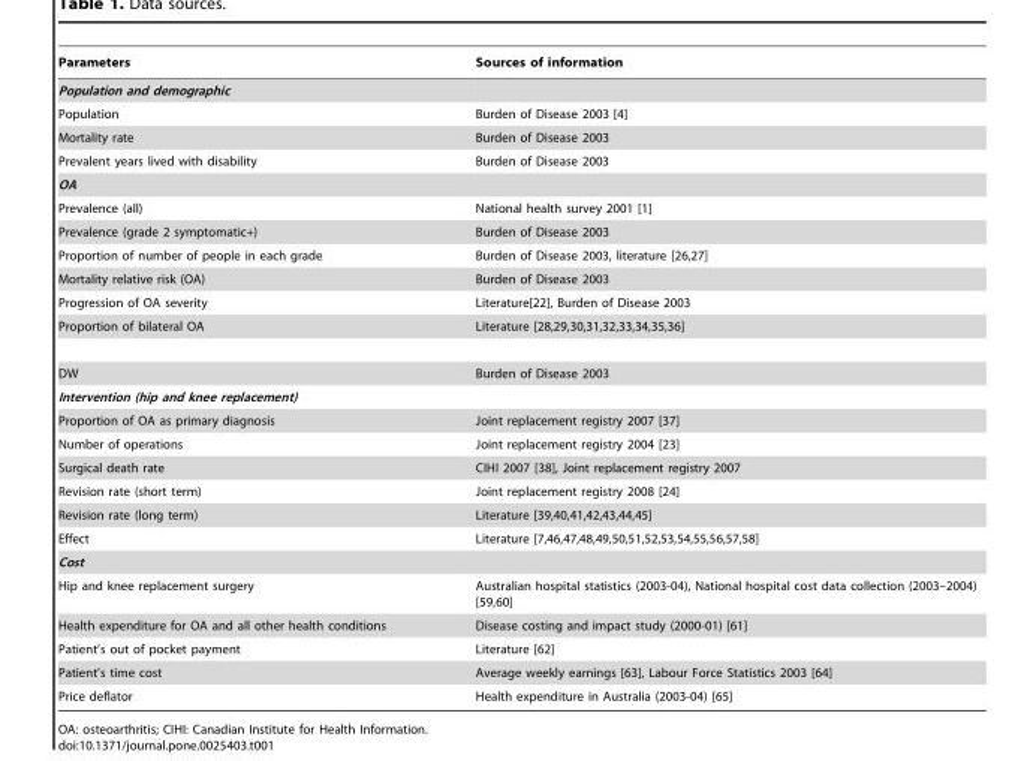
<table><thead><tr><td>Parameters</td><td>Sources of information</td></tr></thead><tbody><tr><td colspan="2">Population and demographic</td></tr><tr><td>Population</td><td>Burden of Disease 2003 [4]</td></tr><tr><td>Mortality rate</td><td>Burden of Disease 2003</td></tr><tr><td>Prevalent years lived with disability</td><td>Burden of Disease 2003</td></tr><tr><td colspan="2">OA</td></tr><tr><td>Prevalence (all)</td><td>National health survey 2001 [1]</td></tr><tr><td>Prevalence (grade 2 symptomatic+)</td><td>Burden of Disease 2003</td></tr><tr><td>Proportion of number of people in each grade</td><td>Burden of Disease 2003, literature [26,27]</td></tr><tr><td>Mortality relative risk (OA)</td><td>Burden of Disease 2003</td></tr><tr><td>Progression of OA severity</td><td>Literature[22], Burden of Disease 2003</td></tr><tr><td>Proportion of bilateral OA</td><td>Literature [28,29,30,31,32,33,34,35,36]</td></tr><tr><td>DW</td><td>Burden of Disease 2003</td></tr><tr><td colspan="2">Intervention (hip and knee replacement)</td></tr><tr><td>Proportion of OA as primary diagnosis</td><td>Joint replacement registry 2007 [37]</td></tr><tr><td>Number of operations</td><td>Joint replacement registry 2004 [23]</td></tr><tr><td>Surgical death rate</td><td>CIHI 2007 [38], Joint replacement registry 2007</td></tr><tr><td>Revision rate (short term)</td><td>Joint replacement registry 2008 [24]</td></tr><tr><td>Revision rate (long term)</td><td>Literature [39,40,41,42,43,44,45]</td></tr><tr><td>Effect</td><td>Literature [7,46,47,48,49,50,51,52,53,54,55,56,57,58]</td></tr><tr><td colspan="2">Cost</td></tr><tr><td>Hip and knee replacement surgery</td><td>Australian hospital statistics (2003-04), National hospital cost data collection (2003–2004) [59,60]</td></tr><tr><td>Health expenditure for OA and all other health conditions</td><td>Disease costing and impact study (2000-01) [61]</td></tr><tr><td>Patient’s out of pocket payment</td><td>Literature [62]</td></tr><tr><td>Patient’s time cost</td><td>Average weekly earnings [63], Labour Force Statistics 2003 [64]</td></tr><tr><td>Price deflator</td><td>Health expenditure in Australia (2003-04) [65]</td></tr></tbody></table>